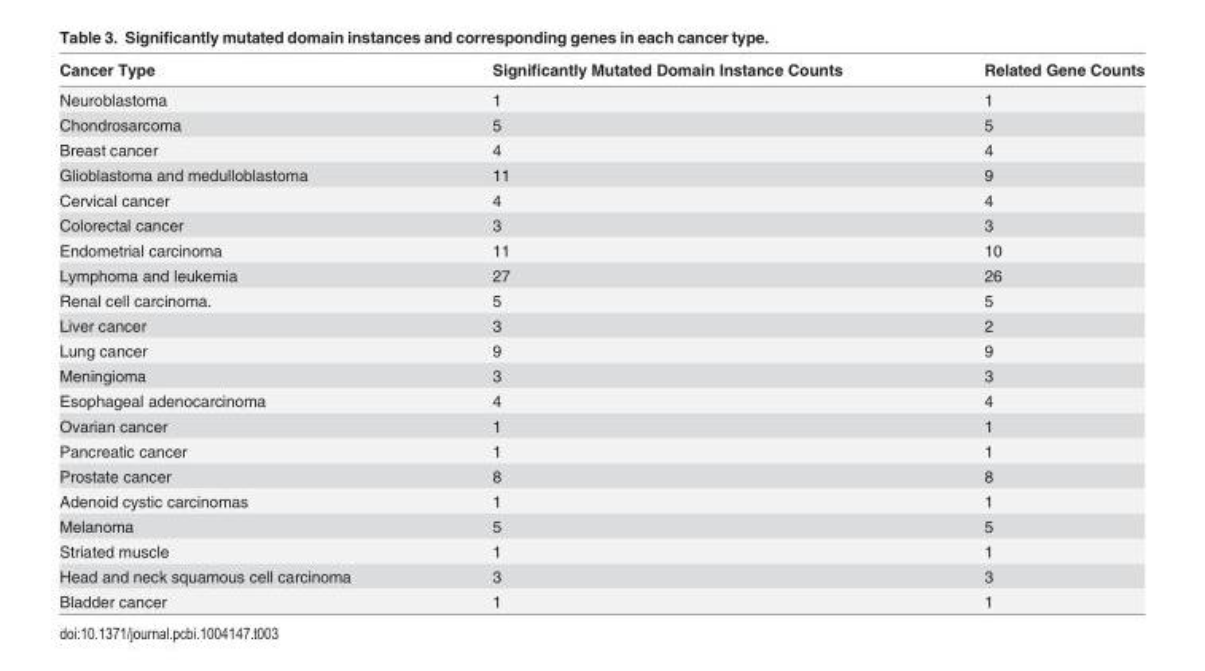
<table><thead><tr><td>Cancer Type</td><td>Significantly Mutated Domain Instance Counts</td><td>Related Gene Counts</td></tr></thead><tbody><tr><td>Neuroblastoma</td><td>1</td><td>1</td></tr><tr><td>Chondrosarcoma</td><td>5</td><td>5</td></tr><tr><td>Breast cancer</td><td>4</td><td>4</td></tr><tr><td>Glioblastoma and medulloblastoma</td><td>11</td><td>9</td></tr><tr><td>Cervical cancer</td><td>4</td><td>4</td></tr><tr><td>Colorectal cancer</td><td>3</td><td>3</td></tr><tr><td>Endometrial carcinoma</td><td>11</td><td>10</td></tr><tr><td>Lymphoma and leukemia</td><td>27</td><td>26</td></tr><tr><td>Renal cell carcinoma.</td><td>5</td><td>5</td></tr><tr><td>Liver cancer</td><td>3</td><td>2</td></tr><tr><td>Lung cancer</td><td>9</td><td>9</td></tr><tr><td>Meningioma</td><td>3</td><td>3</td></tr><tr><td>Esophageal adenocarcinoma</td><td>4</td><td>4</td></tr><tr><td>Ovarian cancer</td><td>1</td><td>1</td></tr><tr><td>Pancreatic cancer</td><td>1</td><td>1</td></tr><tr><td>Prostate cancer</td><td>8</td><td>8</td></tr><tr><td>Adenoid cystic carcinomas</td><td>1</td><td>1</td></tr><tr><td>Melanoma</td><td>5</td><td>5</td></tr><tr><td>Striated muscle</td><td>1</td><td>1</td></tr><tr><td>Head and neck squamous cell carcinoma</td><td>3</td><td>3</td></tr><tr><td>Bladder cancer</td><td>1</td><td>1</td></tr></tbody></table>